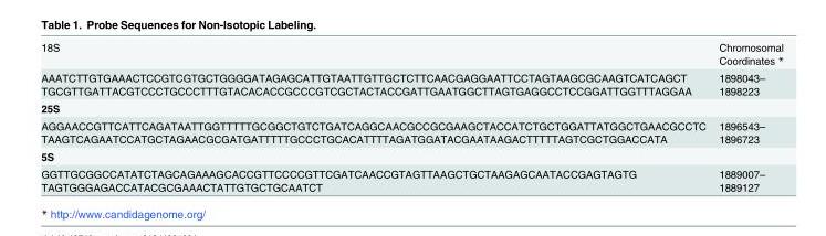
<table><tbody><tr><td>18S</td><td>Chromosomal Coordinates *</td></tr><tr><td>AAATCTTGTGAAACTCCGTCGTGCTGGGGATAGAGCATTGTAATTGTTGCTCTTCAACGAGGAATTCCTAGTAAGCGCAAGTCATCAGCT TGCGTTGATTACGTCCCTGCCCTTTGTACACACCGCCCGTCGCTACTACCGATTGAATGGCTTAGTGAGGCCTCCGGATTGGTTTAGGAA</td><td>1898043– 1898223</td></tr><tr><td colspan="2">25S</td></tr><tr><td>AGGAACCGTTCATTCAGATAATTGGTTTTTGCGGCTGTCTGATCAGGCAACGCCGCGAAGCTACCATCTGCTGGATTATGGCTGAACGCCTC TAAGTCAGAATCCATGCTAGAACGCGATGATTTTTGCCCTGCACATTTTAGATGGATACGAATAAGACTTTTTAGTCGCTGGACCATA</td><td>1896543– 1896723</td></tr><tr><td colspan="2">5S</td></tr><tr><td>GGTTGCGGCCATATCTAGCAGAAAGCACCGTTCCCCGTTCGATCAACCGTAGTTAAGCTGCTAAGAGCAATACCGAGTAGTG TAGTGGGAGACCATACGCGAAACTATTGTGCTGCAATCT</td><td>1889007– 1889127</td></tr></tbody></table>